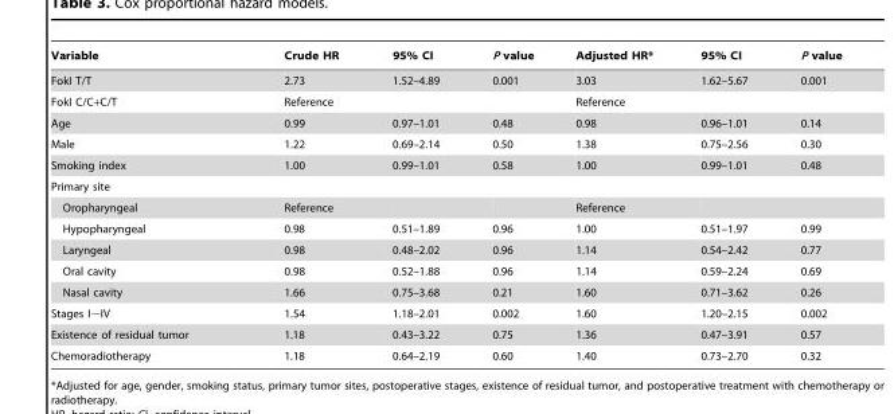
<table><thead><tr><td>Variable</td><td>Crude HR</td><td>95% CI</td><td>P value</td><td>Adjusted HR*</td><td>95% CI</td><td>P value</td></tr></thead><tbody><tr><td>FokI T/T</td><td>2.73</td><td>1.52–4.89</td><td>0.001</td><td>3.03</td><td>1.62–5.67</td><td>0.001</td></tr><tr><td>FokI C/C+C/T</td><td>Reference</td><td></td><td></td><td>Reference</td><td></td><td></td></tr><tr><td>Age</td><td>0.99</td><td>0.97–1.01</td><td>0.48</td><td>0.98</td><td>0.96–1.01</td><td>0.14</td></tr><tr><td>Male</td><td>1.22</td><td>0.69–2.14</td><td>0.50</td><td>1.38</td><td>0.75–2.56</td><td>0.30</td></tr><tr><td>Smoking index</td><td>1.00</td><td>0.99–1.01</td><td>0.58</td><td>1.00</td><td>0.99–1.01</td><td>0.48</td></tr><tr><td colspan="7">Primary site</td></tr><tr><td>Oropharyngeal</td><td>Reference</td><td></td><td></td><td>Reference</td><td></td><td></td></tr><tr><td>Hypopharyngeal</td><td>0.98</td><td>0.51–1.89</td><td>0.96</td><td>1.00</td><td>0.51–1.97</td><td>0.99</td></tr><tr><td>Laryngeal</td><td>0.98</td><td>0.48–2.02</td><td>0.96</td><td>1.14</td><td>0.54–2.42</td><td>0.77</td></tr><tr><td>Oral cavity</td><td>0.98</td><td>0.52–1.88</td><td>0.96</td><td>1.14</td><td>0.59–2.24</td><td>0.69</td></tr><tr><td>Nasal cavity</td><td>1.66</td><td>0.75–3.68</td><td>0.21</td><td>1.60</td><td>0.71–3.62</td><td>0.26</td></tr><tr><td>Stages I∼IV</td><td>1.54</td><td>1.18–2.01</td><td>0.002</td><td>1.60</td><td>1.20–2.15</td><td>0.002</td></tr><tr><td>Existence of residual tumor</td><td>1.18</td><td>0.43–3.22</td><td>0.75</td><td>1.36</td><td>0.47–3.91</td><td>0.57</td></tr><tr><td>Chemoradiotherapy</td><td>1.18</td><td>0.64–2.19</td><td>0.60</td><td>1.40</td><td>0.73–2.70</td><td>0.32</td></tr></tbody></table>